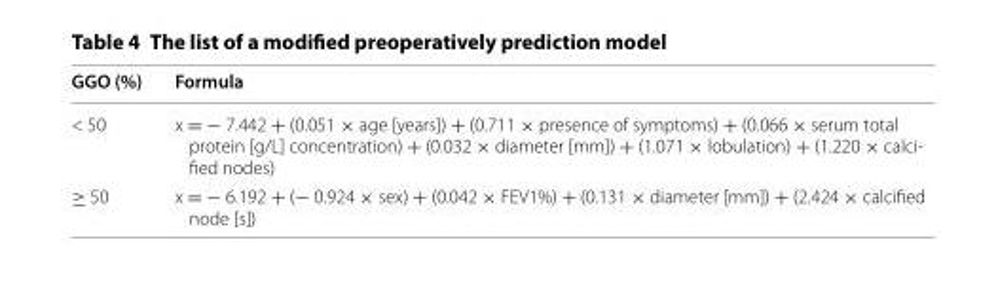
<table><thead><tr><td>GGO (%)</td><td>Formula</td></tr></thead><tbody><tr><td>&lt; 50</td><td>x = − 7.442 + (0.051 × age [years]) + (0.711 × presence of symptoms) + (0.066 × serum total protein [g/L] concentration) + (0.032 × diameter [mm]) + (1.071 × lobulation) + (1.220 × calci- fied nodes)</td></tr><tr><td>≥ 50</td><td>x = − 6.192 + (− 0.924 × sex) + (0.042 × FEV1%) + (0.131 × diameter [mm]) + (2.424 × calcified node [s])</td></tr></tbody></table>